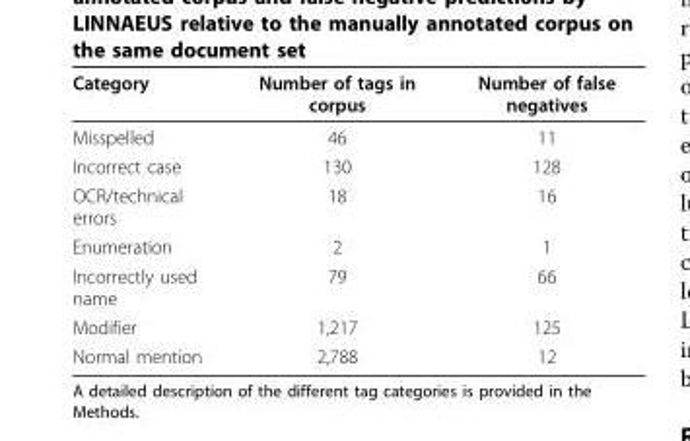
<table><thead><tr><td>Category</td><td>Number of tags in corpus</td><td>Number of false negatives</td></tr></thead><tbody><tr><td>Misspelled</td><td>46</td><td>11</td></tr><tr><td>Incorrect case</td><td>130</td><td>128</td></tr><tr><td>OCR/technical errors</td><td>18</td><td>16</td></tr><tr><td>Enumeration</td><td>2</td><td>1</td></tr><tr><td>Incorrectly used name</td><td>79</td><td>66</td></tr><tr><td>Modifier</td><td>1,217</td><td>125</td></tr><tr><td>Normal mention</td><td>2,788</td><td>12</td></tr></tbody></table>